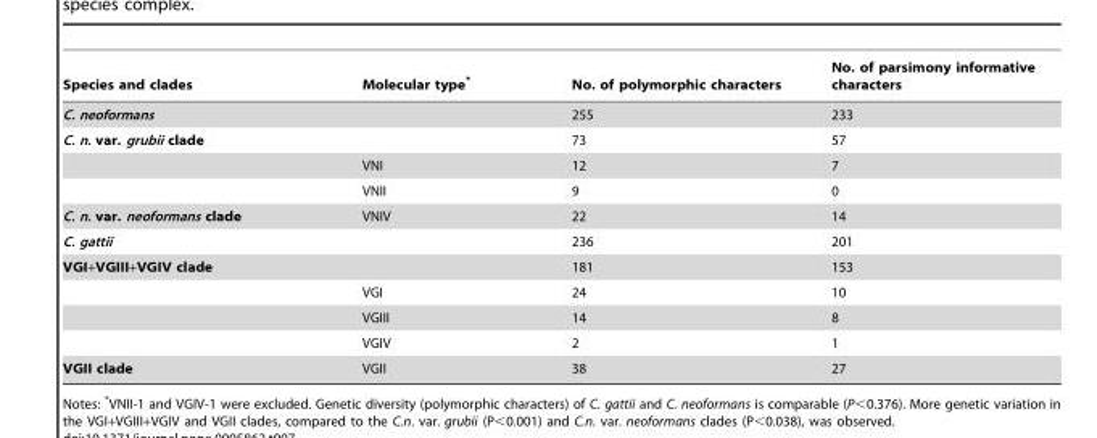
<table><thead><tr><td>Species and clades</td><td>Molecular type*</td><td>No. of polymorphic characters</td><td>No. of parsimony informative characters</td></tr></thead><tbody><tr><td>C. neoformans</td><td></td><td>255</td><td>233</td></tr><tr><td rowspan="3">C. n. var. grubii clade</td><td></td><td>73</td><td>57</td></tr><tr><td>VNI</td><td>12</td><td>7</td></tr><tr><td>VNII</td><td>9</td><td>0</td></tr><tr><td>C. n. var. neoformans clade</td><td>VNIV</td><td>22</td><td>14</td></tr><tr><td>C. gattii</td><td></td><td>236</td><td>201</td></tr><tr><td rowspan="4">VGI+VGIII+VGIV clade</td><td></td><td>181</td><td>153</td></tr><tr><td>VGI</td><td>24</td><td>10</td></tr><tr><td>VGIII</td><td>14</td><td>8</td></tr><tr><td>VGIV</td><td>2</td><td>1</td></tr><tr><td>VGII clade</td><td>VGII</td><td>38</td><td>27</td></tr></tbody></table>